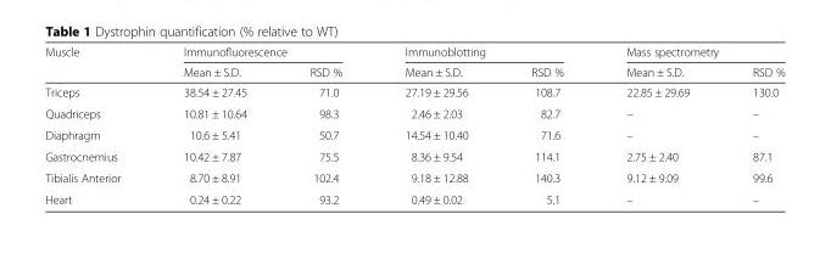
<table><thead><tr><td rowspan="2">Muscle</td><td colspan="2">Immunofluorescence</td><td colspan="2">Immunoblotting</td><td colspan="2">Mass spectrometry</td></tr><tr><td>Mean ± S.D.</td><td>RSD %</td><td>Mean ± S.D.</td><td>RSD %</td><td>Mean ± S.D.</td><td>RSD %</td></tr></thead><tbody><tr><td>Triceps</td><td>38.54 ± 27.45</td><td>71.0</td><td>27.19 ± 29.56</td><td>108.7</td><td>22.85 ± 29.69</td><td>130.0</td></tr><tr><td>Quadriceps</td><td>10.81 ± 10.64</td><td>98.3</td><td>2.46 ± 2.03</td><td>82.7</td><td>–</td><td>–</td></tr><tr><td>Diaphragm</td><td>10.6 ± 5.41</td><td>50.7</td><td>14.54 ± 10.40</td><td>71.6</td><td>–</td><td>–</td></tr><tr><td>Gastrocnemius</td><td>10.42 ± 7.87</td><td>75.5</td><td>8.36 ± 9.54</td><td>114.1</td><td>2.75 ± 2.40</td><td>87.1</td></tr><tr><td>Tibialis Anterior</td><td>8.70 ± 8.91</td><td>102.4</td><td>9.18 ± 12.88</td><td>140.3</td><td>9.12 ± 9.09</td><td>99.6</td></tr><tr><td>Heart</td><td>0.24 ± 0.22</td><td>93.2</td><td>0.49 ± 0.02</td><td>5.1</td><td>–</td><td>–</td></tr></tbody></table>